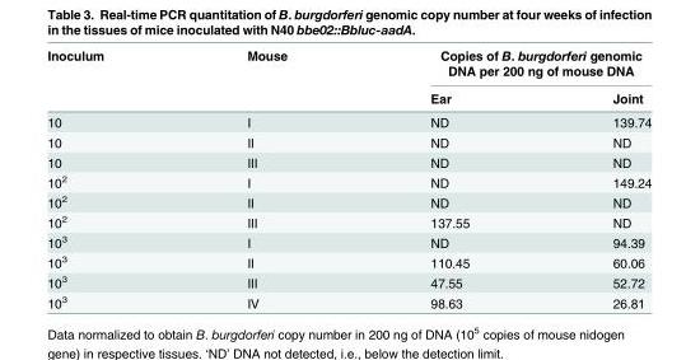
<table><thead><tr><td rowspan="2">Inoculum</td><td rowspan="2">Mouse</td><td colspan="2">Copies of B. burgdorferi genomic DNA per 200 ng of mouse DNA</td></tr><tr><td>Ear</td><td>Joint</td></tr></thead><tbody><tr><td>10</td><td>I</td><td>ND</td><td>139.74</td></tr><tr><td>10</td><td>II</td><td>ND</td><td>ND</td></tr><tr><td>10</td><td>III</td><td>ND</td><td>ND</td></tr><tr><td>10<sup>2</sup></td><td>I</td><td>ND</td><td>149.24</td></tr><tr><td>10<sup>2</sup></td><td>II</td><td>ND</td><td>ND</td></tr><tr><td>10<sup>2</sup></td><td>III</td><td>137.55</td><td>ND</td></tr><tr><td>10<sup>3</sup></td><td>I</td><td>ND</td><td>94.39</td></tr><tr><td>10<sup>3</sup></td><td>II</td><td>110.45</td><td>60.06</td></tr><tr><td>10<sup>3</sup></td><td>III</td><td>47.55</td><td>52.72</td></tr><tr><td>10<sup>3</sup></td><td>IV</td><td>98.63</td><td>26.81</td></tr></tbody></table>